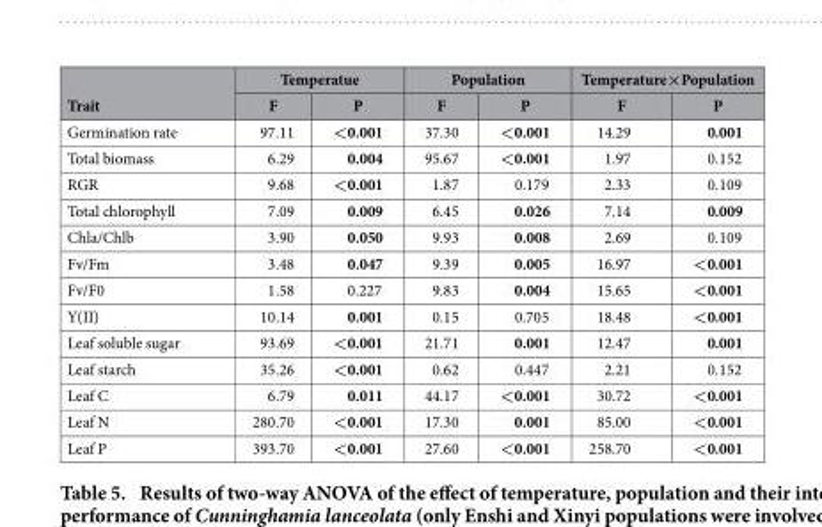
<table><thead><tr><td rowspan="2">Trait</td><td colspan="2">Temperatue</td><td colspan="2">Population</td><td colspan="2">Temperature×Population</td></tr><tr><td>F</td><td>P</td><td>F</td><td>P</td><td>F</td><td>P</td></tr></thead><tbody><tr><td>Germination rate</td><td>97.11</td><td>&lt;0.001</td><td>37.30</td><td>&lt;0.001</td><td>14.29</td><td>0.001</td></tr><tr><td>Total biomass</td><td>6.29</td><td>0.004</td><td>95.67</td><td>&lt;0.001</td><td>1.97</td><td>0.152</td></tr><tr><td>RGR</td><td>9.68</td><td>&lt;0.001</td><td>1.87</td><td>0.179</td><td>2.33</td><td>0.109</td></tr><tr><td>Total chlorophyll</td><td>7.09</td><td>0.009</td><td>6.45</td><td>0.026</td><td>7.14</td><td>0.009</td></tr><tr><td>Chla/Chlb</td><td>3.90</td><td>0.050</td><td>9.93</td><td>0.008</td><td>2.69</td><td>0.109</td></tr><tr><td>Fv/Fm</td><td>3.48</td><td>0.047</td><td>9.39</td><td>0.005</td><td>16.97</td><td>&lt;0.001</td></tr><tr><td>Fv/F0</td><td>1.58</td><td>0.227</td><td>9.83</td><td>0.004</td><td>15.65</td><td>&lt;0.001</td></tr><tr><td>Y(II)</td><td>10.14</td><td>0.001</td><td>0.15</td><td>0.705</td><td>18.48</td><td>&lt;0.001</td></tr><tr><td>Leaf soluble sugar</td><td>93.69</td><td>&lt;0.001</td><td>21.71</td><td>0.001</td><td>12.47</td><td>0.001</td></tr><tr><td>Leaf starch</td><td>35.26</td><td>&lt;0.001</td><td>0.62</td><td>0.447</td><td>2.21</td><td>0.152</td></tr><tr><td>Leaf C</td><td>6.79</td><td>0.011</td><td>44.17</td><td>&lt;0.001</td><td>30.72</td><td>&lt;0.001</td></tr><tr><td>Leaf N</td><td>280.70</td><td>&lt;0.001</td><td>17.30</td><td>0.001</td><td>85.00</td><td>&lt;0.001</td></tr><tr><td>Leaf P</td><td>393.70</td><td>&lt;0.001</td><td>27.60</td><td>&lt;0.001</td><td>258.70</td><td>&lt;0.001</td></tr></tbody></table>